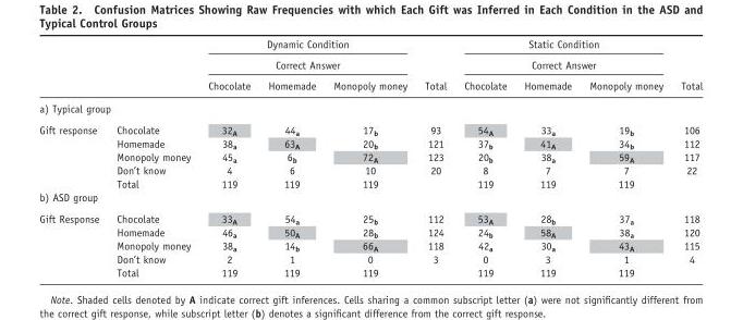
<table><thead><tr><td rowspan="3"></td><td rowspan="3"></td><td rowspan="2" colspan="3">Dynamic Condition Correct Answer</td><td rowspan="3">Total</td><td rowspan="2" colspan="3">Static Condition Correct Answer</td><td rowspan="3">Total</td></tr><tr></tr><tr><td>Chocolate</td><td>Homemade</td><td>Monopoly money</td><td>Chocolate</td><td>Homemade</td><td>Monopoly money</td></tr></thead><tbody><tr><td colspan="10">a) Typical group</td></tr><tr><td rowspan="5">Gift response</td><td>Chocolate</td><td>32<sub>A</sub></td><td>44<sub>a</sub></td><td>17<sub>b</sub></td><td>93</td><td>54<sub>A</sub></td><td>33<sub>a</sub></td><td>19<sub>b</sub></td><td>106</td></tr><tr><td>Homemade</td><td>38<sub>a</sub></td><td>63<sub>A</sub></td><td>20<sub>b</sub></td><td>121</td><td>37<sub>b</sub></td><td>41<sub>A</sub></td><td>34<sub>b</sub></td><td>112</td></tr><tr><td>Monopoly money</td><td>45<sub>a</sub></td><td>6<sub>b</sub></td><td>72<sub>A</sub></td><td>123</td><td>20<sub>b</sub></td><td>38<sub>a</sub></td><td>59<sub>A</sub></td><td>117</td></tr><tr><td>Don’t know</td><td>4</td><td>6</td><td>10</td><td>20</td><td>8</td><td>7</td><td>7</td><td>22</td></tr><tr><td>Total</td><td>119</td><td>119</td><td>119</td><td></td><td>119</td><td>119</td><td>119</td><td></td></tr><tr><td colspan="10">b) ASD group</td></tr><tr><td rowspan="5">Gift Response</td><td>Chocolate</td><td>33<sub>A</sub></td><td>54<sub>a</sub></td><td>25<sub>b</sub></td><td>112</td><td>53<sub>A</sub></td><td>28<sub>b</sub></td><td>37<sub>a</sub></td><td>118</td></tr><tr><td>Homemade</td><td>46<sub>a</sub></td><td>50<sub>A</sub></td><td>28<sub>b</sub></td><td>124</td><td>24<sub>b</sub></td><td>58<sub>A</sub></td><td>38<sub>a</sub></td><td>120</td></tr><tr><td>Monopoly money</td><td>38<sub>a</sub></td><td>14<sub>b</sub></td><td>66<sub>A</sub></td><td>118</td><td>42<sub>a</sub></td><td>30<sub>a</sub></td><td>43<sub>A</sub></td><td>115</td></tr><tr><td>Don’t know</td><td>2</td><td>1</td><td>0</td><td>3</td><td>0</td><td>3</td><td>1</td><td>4</td></tr><tr><td>Total</td><td>119</td><td>119</td><td>119</td><td></td><td>119</td><td>119</td><td>119</td><td></td></tr></tbody></table>